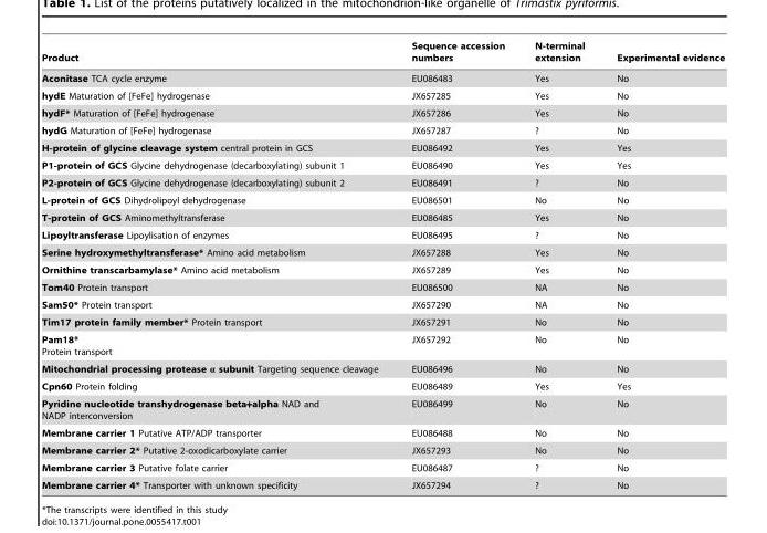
<table><thead><tr><td>Product</td><td>Sequence accession numbers</td><td>N-terminal extension</td><td>Experimental evidence</td></tr></thead><tbody><tr><td>Aconitase TCA cycle enzyme</td><td>EU086483</td><td>Yes</td><td>No</td></tr><tr><td>hydE Maturation of [FeFe] hydrogenase</td><td>JX657285</td><td>Yes</td><td>No</td></tr><tr><td>hydF* Maturation of [FeFe] hydrogenase</td><td>JX657286</td><td>Yes</td><td>No</td></tr><tr><td>hydG Maturation of [FeFe] hydrogenase</td><td>JX657287</td><td>?</td><td>No</td></tr><tr><td>H-protein of glycine cleavage system central protein in GCS</td><td>EU086492</td><td>Yes</td><td>Yes</td></tr><tr><td>P1-protein of GCS Glycine dehydrogenase (decarboxylating) subunit 1</td><td>EU086490</td><td>Yes</td><td>Yes</td></tr><tr><td>P2-protein of GCS Glycine dehydrogenase (decarboxylating) subunit 2</td><td>EU086491</td><td>?</td><td>No</td></tr><tr><td>L-protein of GCS Dihydrolipoyl dehydrogenase</td><td>EU086501</td><td>No</td><td>No</td></tr><tr><td>T-protein of GCS Aminomethyltransferase</td><td>EU086485</td><td>Yes</td><td>No</td></tr><tr><td>Lipoyltransferase Lipoylisation of enzymes</td><td>EU086495</td><td>?</td><td>No</td></tr><tr><td>Serine hydroxymethyltransferase* Amino acid metabolism</td><td>JX657288</td><td>Yes</td><td>No</td></tr><tr><td>Ornithine transcarbamylase* Amino acid metabolism</td><td>JX657289</td><td>Yes</td><td>No</td></tr><tr><td>Tom40 Protein transport</td><td>EU086500</td><td>NA</td><td>No</td></tr><tr><td>Sam50* Protein transport</td><td>JX657290</td><td>NA</td><td>No</td></tr><tr><td>Tim17 protein family member* Protein transport</td><td>JX657291</td><td>No</td><td>No</td></tr><tr><td>Pam18* Protein transport</td><td>JX657292</td><td>No</td><td>No</td></tr><tr><td>Mitochondrial processing protease α subunit Targeting sequence cleavage</td><td>EU086496</td><td>No</td><td>No</td></tr><tr><td>Cpn60 Protein folding</td><td>EU086489</td><td>Yes</td><td>Yes</td></tr><tr><td>Pyridine nucleotide transhydrogenase beta+alpha NAD and NADP interconversion</td><td>EU086499</td><td>No</td><td>No</td></tr><tr><td>Membrane carrier 1 Putative ATP/ADP transporter</td><td>EU086488</td><td>No</td><td>No</td></tr><tr><td>Membrane carrier 2* Putative 2-oxodicarboxylate carrier</td><td>JX657293</td><td>No</td><td>No</td></tr><tr><td>Membrane carrier 3 Putative folate carrier</td><td>EU086487</td><td>?</td><td>No</td></tr><tr><td>Membrane carrier 4* Transporter with unknown specificity</td><td>JX657294</td><td>?</td><td>No</td></tr></tbody></table>